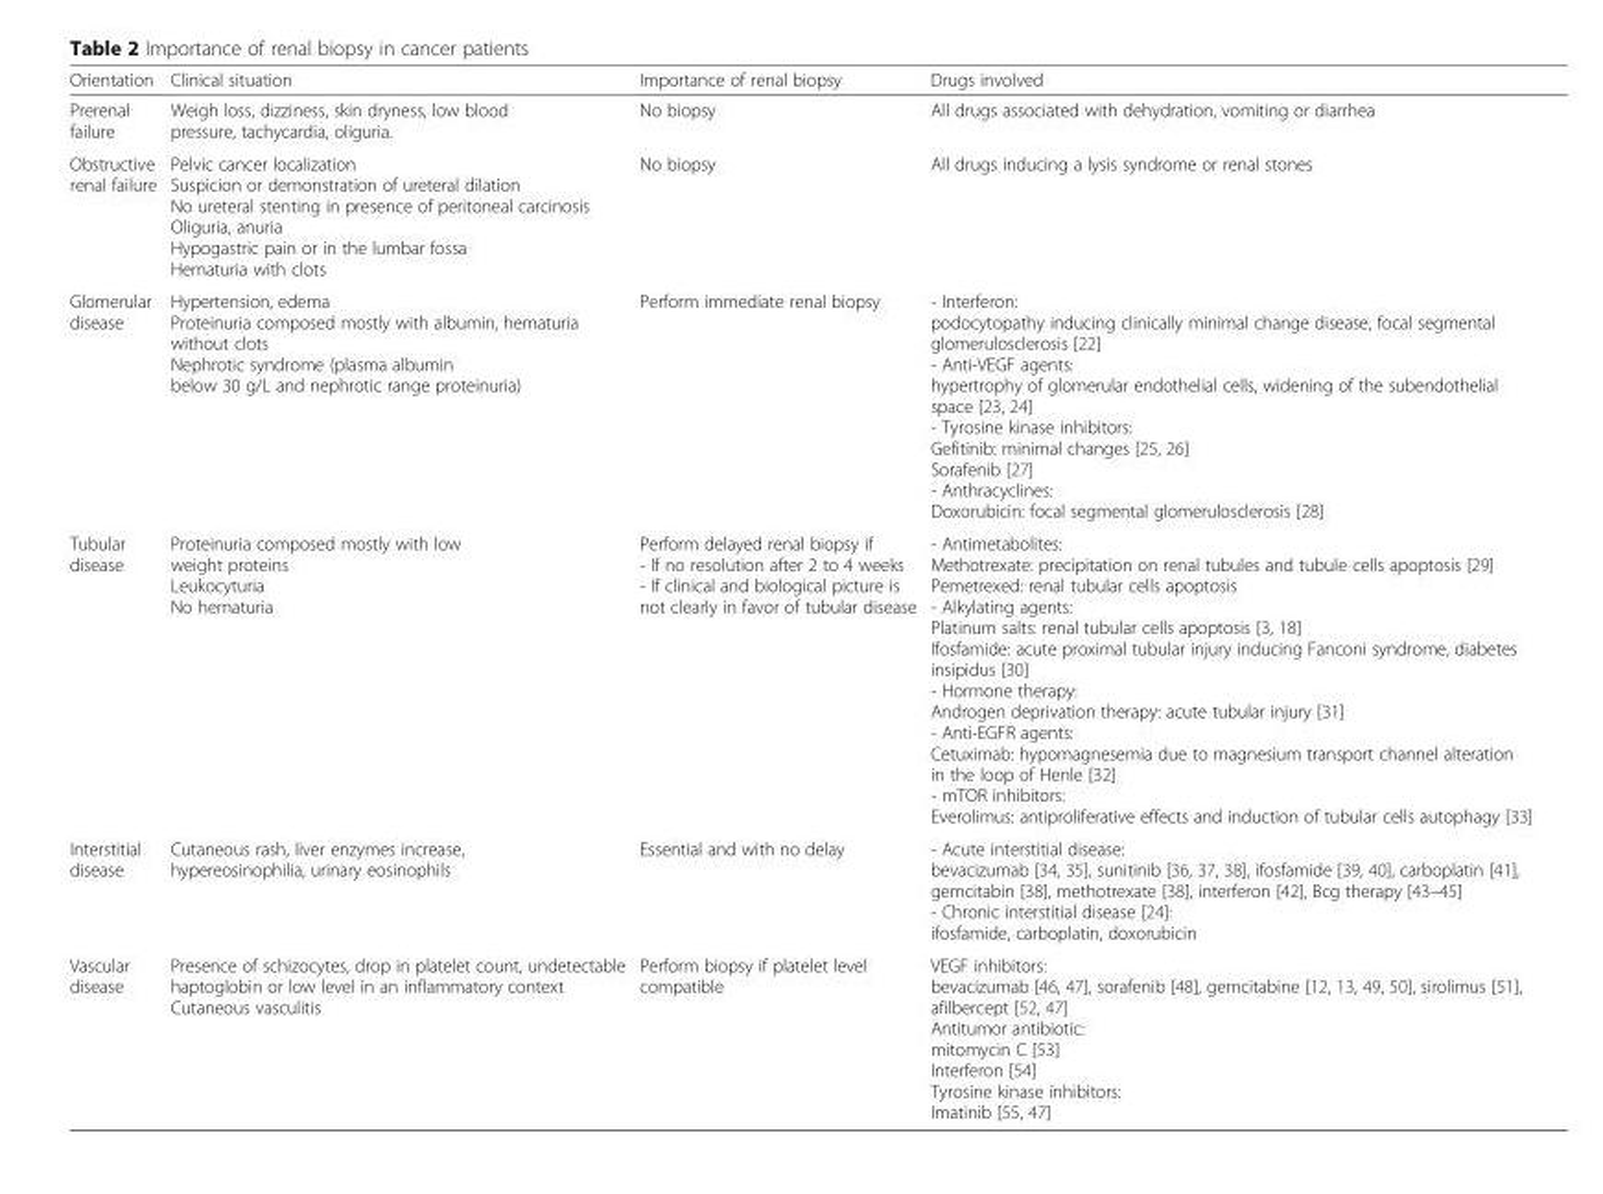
<table><thead><tr><td>Orientation</td><td>Clinical situation</td><td>Importance of renal biopsy</td><td>Drugs involved</td></tr></thead><tbody><tr><td>Prerenal failure</td><td>Weigh loss, dizziness, skin dryness, low blood pressure, tachycardia, oliguria.</td><td>No biopsy</td><td>All drugs associated with dehydration, vomiting or diarrhea</td></tr><tr><td>Obstructive renal failure</td><td>Pelvic cancer localization Suspicion or demonstration of ureteral dilation No ureteral stenting in presence of peritoneal carcinosis Oliguria, anuria Hypogastric pain or in the lumbar fossa Hematuria with clots</td><td>No biopsy</td><td>All drugs inducing a lysis syndrome or renal stones</td></tr><tr><td>Glomerular disease</td><td>Hypertension, edema Proteinuria composed mostly with albumin, hematuria without clots Nephrotic syndrome (plasma albumin below 30 g/L and nephrotic range proteinuria)</td><td>Perform immediate renal biopsy</td><td>- Interferon: podocytopathy inducing clinically minimal change disease, focal segmental glomerulosclerosis [22] - Anti-VEGF agents: hypertrophy of glomerular endothelial cells, widening of the subendothelial space [23, 24] - Tyrosine kinase inhibitors: Gefitinib: minimal changes [25, 26] Sorafenib [27] - Anthracyclines: Doxorubicin: focal segmental glomerulosclerosis [28]</td></tr><tr><td>Tubular disease</td><td>Proteinuria composed mostly with low weight proteins Leukocyturia No hematuria</td><td>Perform delayed renal biopsy if - If no resolution after 2 to 4 weeks - If clinical and biological picture is not clearly in favor of tubular disease</td><td>- Antimetabolites: Methotrexate: precipitation on renal tubules and tubule cells apoptosis [29] Pemetrexed: renal tubular cells apoptosis - Alkylating agents: Platinum salts: renal tubular cells apoptosis [3, 18] Ifosfamide: acute proximal tubular injury inducing Fanconi syndrome, diabetes insipidus [30] - Hormone therapy: Androgen deprivation therapy: acute tubular injury [31] - Anti-EGFR agents: Cetuximab: hypomagnesemia due to magnesium transport channel alteration in the loop of Henle [32] - mTOR inhibitors: Everolimus: antiproliferative effects and induction of tubular cells autophagy [33]</td></tr><tr><td>Interstitial disease</td><td>Cutaneous rash, liver enzymes increase, hypereosinophilia, urinary eosinophils</td><td>Essential and with no delay</td><td>- Acute interstitial disease: bevacizumab [34, 35], sunitinib [36, 37, 38], ifosfamide [39, 40], carboplatin [41], gemcitabin [38], methotrexate [38], interferon [42], Bcg therapy [43–45] - Chronic interstitial disease [24]: ifosfamide, carboplatin, doxorubicin</td></tr><tr><td>Vascular disease</td><td>Presence of schizocytes, drop in platelet count, undetectable haptoglobin or low level in an inflammatory context Cutaneous vasculitis</td><td>Perform biopsy if platelet level compatible</td><td>VEGF inhibitors: bevacizumab [46, 47], sorafenib [48], gemcitabine [12, 13, 49, 50], sirolimus [51], afilbercept [52, 47] Antitumor antibiotic: mitomycin C [53] Interferon [54] Tyrosine kinase inhibitors: Imatinib [55, 47]</td></tr></tbody></table>